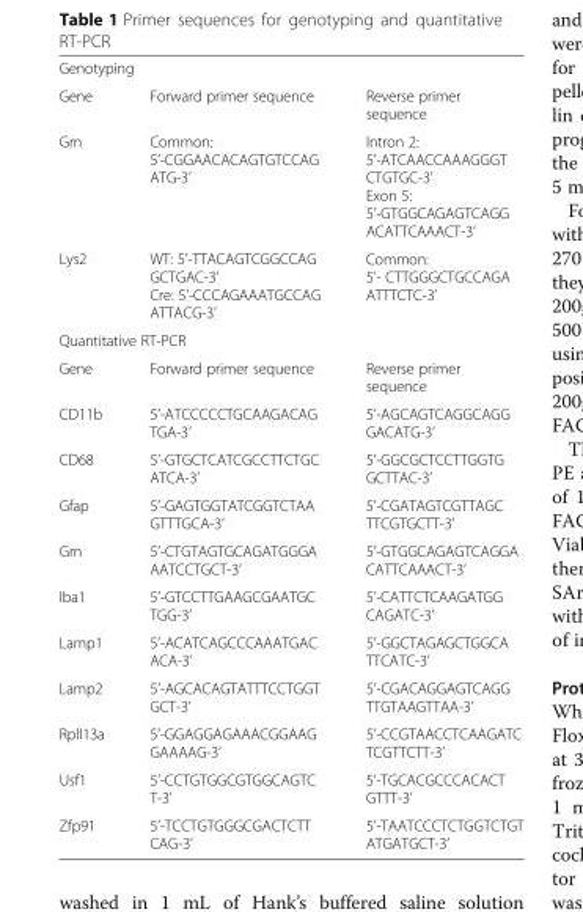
<table><tbody><tr><td colspan="3">Genotyping</td></tr><tr><td>Gene</td><td>Forward primer sequence</td><td>Reverse primer sequence</td></tr><tr><td>Grn</td><td>Common: 5’-CGGAACACAGTGTCCAG ATG-3’</td><td>Intron 2: 5’-ATCAACCAAAGGGT CTGTGC-3’ Exon 5: 5’-GTGGCAGAGTCAGG ACATTCAAACT-3’</td></tr><tr><td>Lys2</td><td>WT: 5’-TTACAGTCGGCCAG GCTGAC-3’ Cre: 5’-CCCAGAAATGCCAG ATTACG-3’</td><td>Common: 5’- CTTGGGCTGCCAGA ATTTCTC-3’</td></tr><tr><td colspan="3">Quantitative RT-PCR</td></tr><tr><td>Gene</td><td>Forward primer sequence</td><td>Reverse primer sequence</td></tr><tr><td>CD11b</td><td>5’-ATCCCCCTGCAAGACAG TGA-3’</td><td>5’-AGCAGTCAGGCAGG GACATG-3’</td></tr><tr><td>CD68</td><td>5’-GTGCTCATCGCCTTCTGC ATCA-3’</td><td>5’-GGCGCTCCTTGGTG GCTTAC-3’</td></tr><tr><td>Gfap</td><td>5’-GAGTGGTATCGGTCTAA GTTTGCA-3’</td><td>5’-CGATAGTCGTTAGC TTCGTGCTT-3’</td></tr><tr><td>Grn</td><td>5’-CTGTAGTGCAGATGGGA AATCCTGCT-3’</td><td>5’-GTGGCAGAGTCAGGA CATTCAAACT-3’</td></tr><tr><td>Iba1</td><td>5’-GTCCTTGAAGCGAATGC TGG-3’</td><td>5’-CATTCTCAAGATGG CAGATC-3’</td></tr><tr><td>Lamp1</td><td>5’-ACATCAGCCCAAATGAC ACA-3’</td><td>5’-GGCTAGAGCTGGCA TTCATC-3’</td></tr><tr><td>Lamp2</td><td>5’-AGCACAGTATTTCCTGGT GCT-3’</td><td>5’-CGACAGGAGTCAGG TTGTAAGTTAA-3’</td></tr><tr><td>RplI13a</td><td>5’-GGAGGAGAAACGGAAG GAAAAG-3’</td><td>5’-CCGTAACCTCAAGATC TCGTTCTT-3’</td></tr><tr><td>Usf1</td><td>5’-CCTGTGGCGTGGCAGTC T-3’</td><td>5’-TGCACGCCCACACT GTTT-3’</td></tr><tr><td>Zfp91</td><td>5’-TCCTGTGGGCGACTCTT CAG-3’</td><td>5’-TAATCCCTCTGGTCTGT ATGATGCT-3’</td></tr></tbody></table>